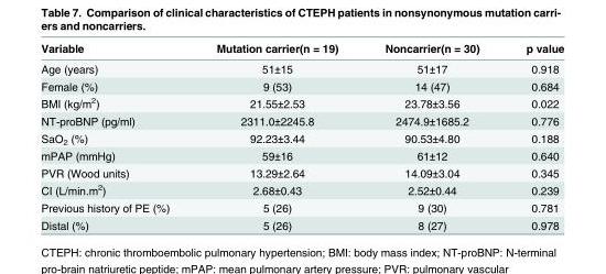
<table><thead><tr><td>Variable</td><td>Mutation carrier(n = 19)</td><td>Noncarrier(n = 30)</td><td>p value</td></tr></thead><tbody><tr><td>Age (years)</td><td>51±15</td><td>51±17</td><td>0.918</td></tr><tr><td>Female (%)</td><td>9 (53)</td><td>14 (47)</td><td>0.684</td></tr><tr><td>BMI (kg/m<sup>2</sup>)</td><td>21.55±2.53</td><td>23.78±3.56</td><td>0.022</td></tr><tr><td>NT-proBNP (pg/ml)</td><td>2311.0±2245.8</td><td>2474.9±1685.2</td><td>0.776</td></tr><tr><td>SaO<sub>2</sub> (%)</td><td>92.23±3.44</td><td>90.53±4.80</td><td>0.188</td></tr><tr><td>mPAP (mmHg)</td><td>59±16</td><td>61±12</td><td>0.640</td></tr><tr><td>PVR (Wood units)</td><td>13.29±2.64</td><td>14.09±3.04</td><td>0.345</td></tr><tr><td>CI (L/min.m<sup>2</sup>)</td><td>2.68±0.43</td><td>2.52±0.44</td><td>0.239</td></tr><tr><td>Previous history of PE (%)</td><td>5 (26)</td><td>9 (30)</td><td>0.781</td></tr><tr><td>Distal (%)</td><td>5 (26)</td><td>8 (27)</td><td>0.978</td></tr></tbody></table>